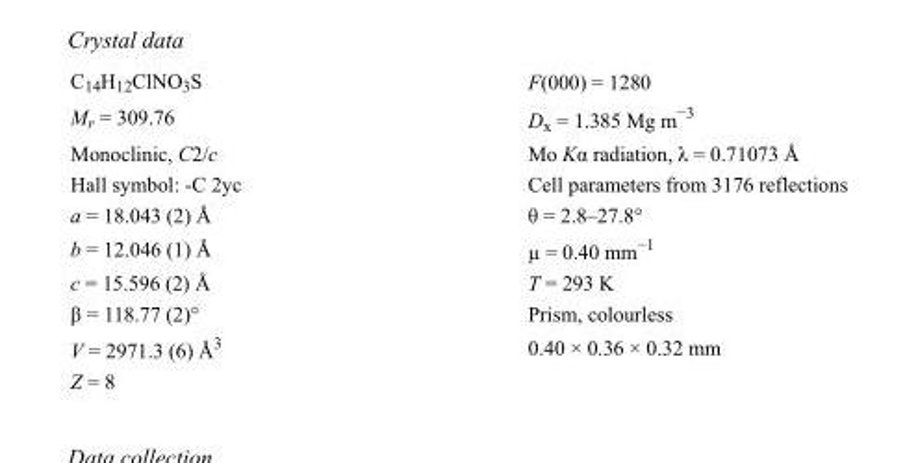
<table><tbody><tr><td>C<sub>14</sub>H<sub>12</sub>ClNO<sub>3</sub>S</td><td>F(000) = 1280</td></tr><tr><td>M<sub>r</sub> = 309.76</td><td>D<sub>x</sub> = 1.385 Mg m<sup>−3</sup></td></tr><tr><td>Monoclinic, C2/c</td><td>Mo Kα radiation, λ = 0.71073 Å</td></tr><tr><td>Hall symbol: -C 2yc</td><td>Cell parameters from 3176 reflections</td></tr><tr><td>a = 18.043 (2) Å</td><td>θ = 2.8–27.8°</td></tr><tr><td>b = 12.046 (1) Å</td><td>µ = 0.40 mm<sup>−1</sup></td></tr><tr><td>c = 15.596 (2) Å</td><td>T = 293 K</td></tr><tr><td>β = 118.77 (2)°</td><td>Prism, colourless</td></tr><tr><td>V = 2971.3 (6) Å<sup>3</sup></td><td>0.40 × 0.36 × 0.32 mm</td></tr><tr><td>Z = 8</td><td></td></tr></tbody></table>